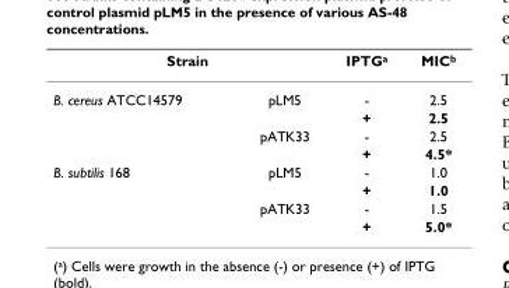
<table><thead><tr><td colspan="2">Strain</td><td rowspan="2">IPTG<sup>a</sup> -</td><td rowspan="2">MICb 2.5</td></tr><tr><td>B. cereus ATCC14579</td><td>pLM5</td></tr></thead><tbody><tr><td></td><td></td><td>+</td><td>2.5</td></tr><tr><td></td><td>pATK33</td><td>-</td><td>2.5</td></tr><tr><td></td><td></td><td>+</td><td>4.5*</td></tr><tr><td rowspan="4">B. subtilis 168</td><td>pLM5</td><td>-</td><td>1.0</td></tr><tr><td></td><td>+</td><td>1.0</td></tr><tr><td>pATK33</td><td>-</td><td>1.5</td></tr><tr><td></td><td>+</td><td>5.0*</td></tr></tbody></table>